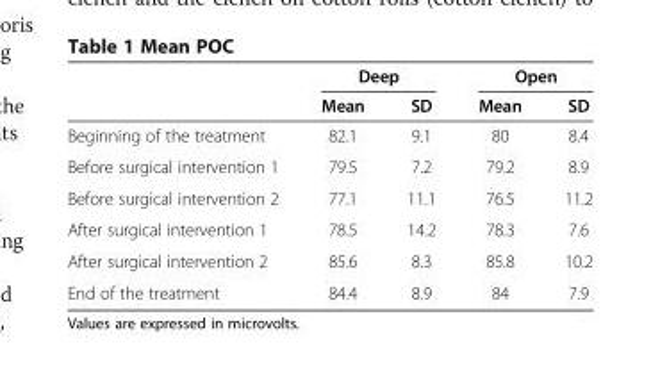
<table><thead><tr><td rowspan="2"></td><td colspan="2">Deep</td><td colspan="2">Open</td></tr><tr><td>Mean</td><td>SD</td><td>Mean</td><td>SD</td></tr></thead><tbody><tr><td>Beginning of the treatment</td><td>82.1</td><td>9.1</td><td>80</td><td>8.4</td></tr><tr><td>Before surgical intervention 1</td><td>79.5</td><td>7.2</td><td>79.2</td><td>8.9</td></tr><tr><td>Before surgical intervention 2</td><td>77.1</td><td>11.1</td><td>76.5</td><td>11.2</td></tr><tr><td>After surgical intervention 1</td><td>78.5</td><td>14.2</td><td>78.3</td><td>7.6</td></tr><tr><td>After surgical intervention 2</td><td>85.6</td><td>8.3</td><td>85.8</td><td>10.2</td></tr><tr><td>End of the treatment</td><td>84.4</td><td>8.9</td><td>84</td><td>7.9</td></tr></tbody></table>